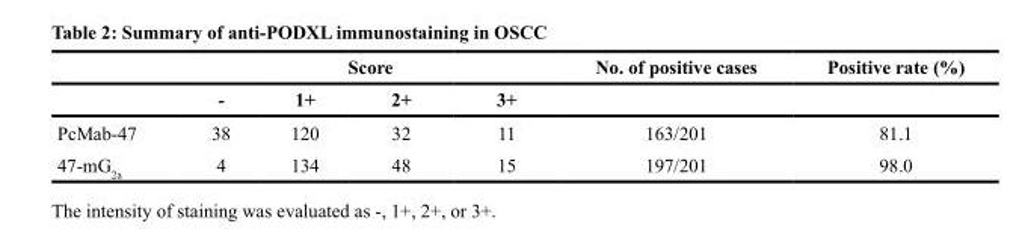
<table><thead><tr><td rowspan="2"></td><td colspan="4">Score</td><td rowspan="2">No. of positive cases</td><td rowspan="2">Positive rate (%)</td></tr><tr><td>-</td><td>1+</td><td>2+</td><td>3+</td></tr></thead><tbody><tr><td>PcMab-47</td><td>38</td><td>120</td><td>32</td><td>11</td><td>163/201</td><td>81.1</td></tr><tr><td>47-mG<sub>2a</sub></td><td>4</td><td>134</td><td>48</td><td>15</td><td>197/201</td><td>98.0</td></tr></tbody></table>